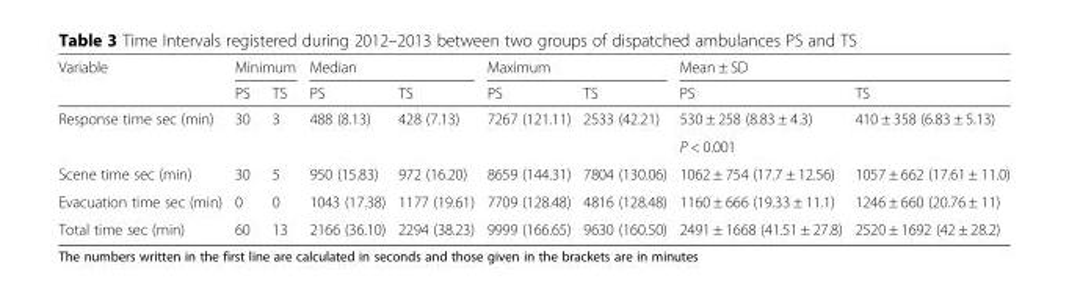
<table><thead><tr><td rowspan="2">Variable</td><td colspan="2">Minimum</td><td colspan="2">Median</td><td colspan="2">Maximum</td><td colspan="2">Mean ± SD</td></tr><tr><td>PS</td><td>TS</td><td>PS</td><td>TS</td><td>PS</td><td>TS</td><td>PS</td><td>TS</td></tr></thead><tbody><tr><td rowspan="2">Response time sec (min)</td><td>30</td><td>3</td><td>488 (8.13)</td><td>428 (7.13)</td><td>7267 (121.11)</td><td>2533 (42.21)</td><td>530 ± 258 (8.83 ± 4.3)</td><td>410 ± 358 (6.83 ± 5.13)</td></tr><tr><td colspan="2"></td><td colspan="2"></td><td colspan="2"></td><td colspan="2">P &lt; 0.001</td></tr><tr><td>Scene time sec (min)</td><td>30</td><td>5</td><td>950 (15.83)</td><td>972 (16.20)</td><td>8659 (144.31)</td><td>7804 (130.06)</td><td>1062 ± 754 (17.7 ± 12.56)</td><td>1057 ± 662 (17.61 ± 11.0)</td></tr><tr><td>Evacuation time sec (min)</td><td>0</td><td>0</td><td>1043 (17.38)</td><td>1177 (19.61)</td><td>7709 (128.48)</td><td>4816 (128.48)</td><td>1160 ± 666 (19.33 ± 11.1)</td><td>1246 ± 660 (20.76 ± 11)</td></tr><tr><td>Total time sec (min)</td><td>60</td><td>13</td><td>2166 (36.10)</td><td>2294 (38.23)</td><td>9999 (166.65)</td><td>9630 (160.50)</td><td>2491 ± 1668 (41.51 ± 27.8)</td><td>2520 ± 1692 (42 ± 28.2)</td></tr></tbody></table>